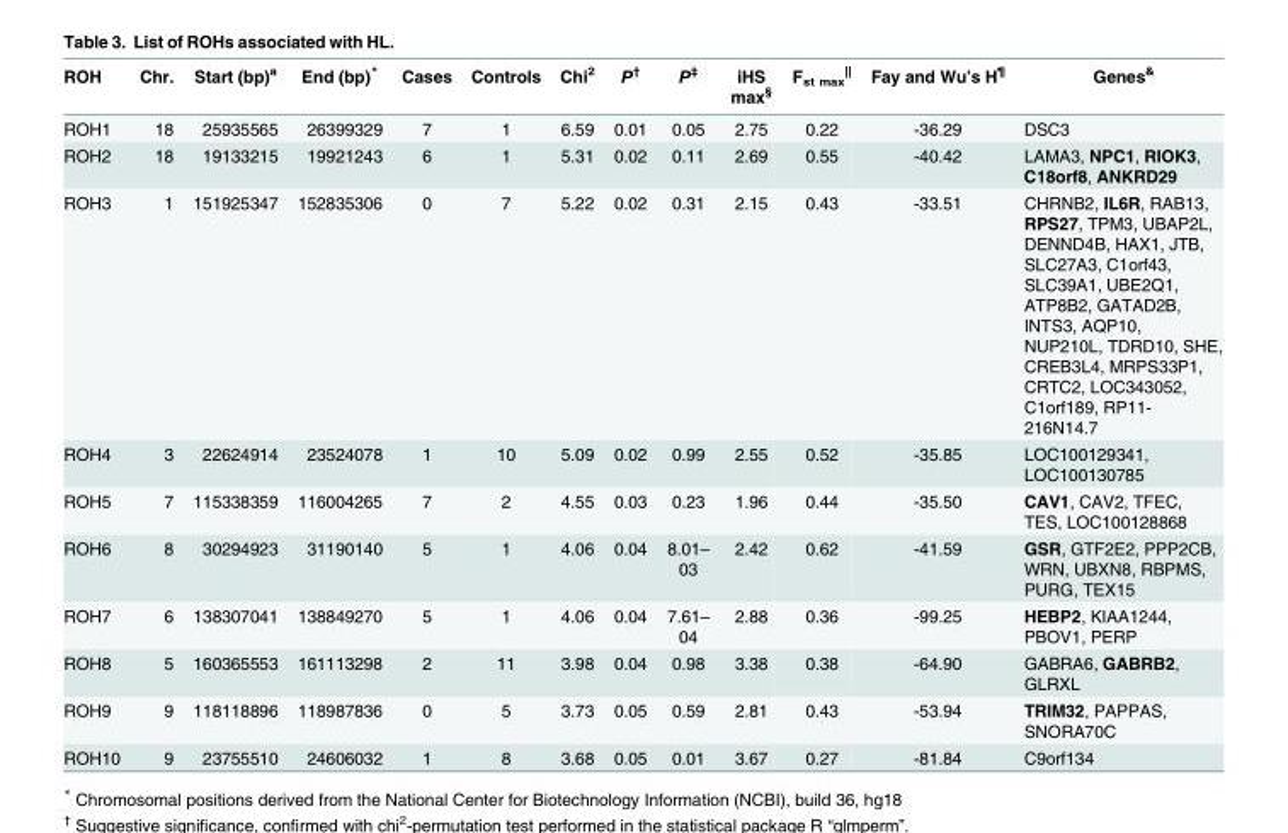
<table><thead><tr><td>ROH</td><td>Chr.</td><td>Start (bp)<sup>a</sup></td><td>End (bp)*</td><td>Cases</td><td>Controls</td><td>Chi<sup>2</sup></td><td>P<sup>†</sup></td><td>P<sup>‡</sup></td><td>iHS max<sup>§</sup></td><td>F<sub>st max</sub> <sup>||</sup></td><td>Fay and Wu’s H<sup>¶</sup></td><td>Genes<sup>&amp;</sup></td></tr></thead><tbody><tr><td>ROH1</td><td>18</td><td>25935565</td><td>26399329</td><td>7</td><td>1</td><td>6.59</td><td>0.01</td><td>0.05</td><td>2.75</td><td>0.22</td><td>-36.29</td><td>DSC3</td></tr><tr><td>ROH2</td><td>18</td><td>19133215</td><td>19921243</td><td>6</td><td>1</td><td>5.31</td><td>0.02</td><td>0.11</td><td>2.69</td><td>0.55</td><td>-40.42</td><td>LAMA3, NPC1, RIOK3, C18orf8, ANKRD29</td></tr><tr><td>ROH3</td><td>1</td><td>151925347</td><td>152835306</td><td>0</td><td>7</td><td>5.22</td><td>0.02</td><td>0.31</td><td>2.15</td><td>0.43</td><td>-33.51</td><td>CHRNB2, IL6R, RAB13, RPS27, TPM3, UBAP2L, DENND4B, HAX1, JTB, SLC27A3, C1orf43, SLC39A1, UBE2Q1, ATP8B2, GATAD2B, INTS3, AQP10, NUP210L, TDRD10, SHE, CREB3L4, MRPS33P1, CRTC2, LOC343052, C1orf189, RP11- 216N14.7</td></tr><tr><td>ROH4</td><td>3</td><td>22624914</td><td>23524078</td><td>1</td><td>10</td><td>5.09</td><td>0.02</td><td>0.99</td><td>2.55</td><td>0.52</td><td>-35.85</td><td>LOC100129341, LOC100130785</td></tr><tr><td>ROH5</td><td>7</td><td>115338359</td><td>116004265</td><td>7</td><td>2</td><td>4.55</td><td>0.03</td><td>0.23</td><td>1.96</td><td>0.44</td><td>-35.50</td><td>CAV1, CAV2, TFEC, TES, LOC100128868</td></tr><tr><td>ROH6</td><td>8</td><td>30294923</td><td>31190140</td><td>5</td><td>1</td><td>4.06</td><td>0.04</td><td>8.01– 03</td><td>2.42</td><td>0.62</td><td>-41.59</td><td>GSR, GTF2E2, PPP2CB, WRN, UBXN8, RBPMS, PURG, TEX15</td></tr><tr><td>ROH7</td><td>6</td><td>138307041</td><td>138849270</td><td>5</td><td>1</td><td>4.06</td><td>0.04</td><td>7.61– 04</td><td>2.88</td><td>0.36</td><td>-99.25</td><td>HEBP2, KIAA1244, PBOV1, PERP</td></tr><tr><td>ROH8</td><td>5</td><td>160365553</td><td>161113298</td><td>2</td><td>11</td><td>3.98</td><td>0.04</td><td>0.98</td><td>3.38</td><td>0.38</td><td>-64.90</td><td>GABRA6, GABRB2, GLRXL</td></tr><tr><td>ROH9</td><td>9</td><td>118118896</td><td>118987836</td><td>0</td><td>5</td><td>3.73</td><td>0.05</td><td>0.59</td><td>2.81</td><td>0.43</td><td>-53.94</td><td>TRIM32, PAPPAS, SNORA70C</td></tr><tr><td>ROH10</td><td>9</td><td>23755510</td><td>24606032</td><td>1</td><td>8</td><td>3.68</td><td>0.05</td><td>0.01</td><td>3.67</td><td>0.27</td><td>-81.84</td><td>C9orf134</td></tr></tbody></table>